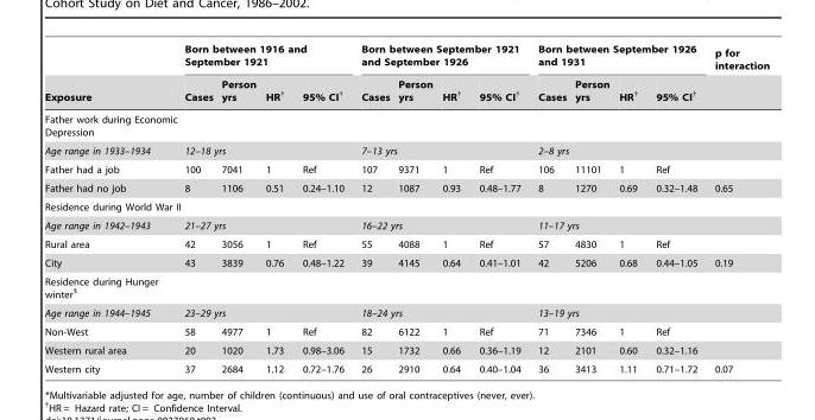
<table><thead><tr><td rowspan="2">Exposure</td><td colspan="4">Born between 1916 and September 1921</td><td colspan="4">Born between September 1921 and September 1926</td><td colspan="4">Born between September 1926 and 1931</td><td rowspan="2">p for interaction</td></tr><tr><td>Cases</td><td>Person yrs</td><td>HR†</td><td>95% CI†</td><td>Cases</td><td>Person yrs</td><td>HR†</td><td>95% CI†</td><td>Cases</td><td>Person yrs</td><td>HR†</td><td>95% CI†</td></tr></thead><tbody><tr><td colspan="14">Father work during Economic Depression</td></tr><tr><td>Age range in 1933–1934</td><td colspan="4">12–18 yrs</td><td colspan="4">7–13 yrs</td><td colspan="4">2–8 yrs</td><td></td></tr><tr><td>Father had a job</td><td>100</td><td>7041</td><td>1</td><td>Ref</td><td>107</td><td>9371</td><td>1</td><td>Ref</td><td>106</td><td>11101</td><td>1</td><td>Ref</td><td></td></tr><tr><td>Father had no job</td><td>8</td><td>1106</td><td>0.51</td><td>0.24–1.10</td><td>12</td><td>1087</td><td>0.93</td><td>0.48–1.77</td><td>8</td><td>1270</td><td>0.69</td><td>0.32–1.48</td><td>0.65</td></tr><tr><td colspan="14">Residence during World War II</td></tr><tr><td>Age range in 1942–1943</td><td colspan="4">21–27 yrs</td><td colspan="4">16–22 yrs</td><td colspan="4">11–17 yrs</td><td></td></tr><tr><td>Rural area</td><td>42</td><td>3056</td><td>1</td><td>Ref</td><td>55</td><td>4088</td><td>1</td><td>Ref</td><td>57</td><td>4830</td><td>1</td><td>Ref</td><td></td></tr><tr><td>City</td><td>43</td><td>3839</td><td>0.76</td><td>0.48–1.22</td><td>39</td><td>4145</td><td>0.64</td><td>0.41–1.01</td><td>42</td><td>5206</td><td>0.68</td><td>0.44–1.05</td><td>0.19</td></tr><tr><td colspan="14">Residence during Hunger winter<sup>§</sup></td></tr><tr><td>Age range in 1944–1945</td><td colspan="4">23–29 yrs</td><td colspan="4">18–24 yrs</td><td colspan="4">13–19 yrs</td><td></td></tr><tr><td>Non-West</td><td>58</td><td>4977</td><td>1</td><td>Ref</td><td>82</td><td>6122</td><td>1</td><td>Ref</td><td>71</td><td>7346</td><td>1</td><td>Ref</td><td></td></tr><tr><td>Western rural area</td><td>20</td><td>1020</td><td>1.73</td><td>0.98–3.06</td><td>15</td><td>1732</td><td>0.66</td><td>0.36–1.19</td><td>12</td><td>2101</td><td>0.60</td><td>0.32–1.16</td><td></td></tr><tr><td>Western city</td><td>37</td><td>2684</td><td>1.12</td><td>0.72–1.76</td><td>26</td><td>2910</td><td>0.64</td><td>0.40–1.04</td><td>36</td><td>3413</td><td>1.11</td><td>0.71–1.72</td><td>0.07</td></tr></tbody></table>